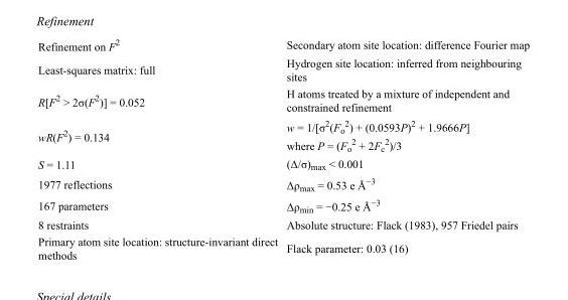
<table><tbody><tr><td>Refinement on F<sup>2</sup></td><td>Secondary atom site location: difference Fourier map</td></tr><tr><td>Least-squares matrix: full</td><td>Hydrogen site location: inferred from neighbouring sites</td></tr><tr><td>R[F<sup>2</sup> &gt; 2σ(F<sup>2</sup>)] = 0.052</td><td>H atoms treated by a mixture of independent and constrained refinement</td></tr><tr><td>wR(F<sup>2</sup>) = 0.134</td><td>w = 1/[σ<sup>2</sup>(F<sub>o</sub> <sup>2</sup>) + (0.0593P)<sup>2</sup> + 1.9666P] where P = (F<sub>o</sub> <sup>2</sup> + 2F<sub>c</sub> <sup>2</sup>)/3</td></tr><tr><td>S = 1.11</td><td>(Δ/σ)<sub>max</sub> &lt; 0.001</td></tr><tr><td>1977 reflections</td><td>Δρ<sub>max</sub> = 0.53 e Å<sup>−3</sup></td></tr><tr><td>167 parameters</td><td>Δρ<sub>min</sub> = −0.25 e Å<sup>−3</sup></td></tr><tr><td>8 restraints</td><td>Absolute structure: Flack (1983), 957 Friedel pairs</td></tr><tr><td>Primary atom site location: structure-invariant direct methods</td><td>Flack parameter: 0.03 (16)</td></tr></tbody></table>